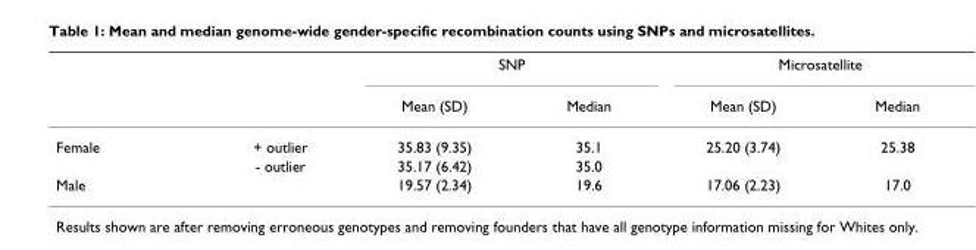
<table><thead><tr><td rowspan="2"></td><td rowspan="2"></td><td colspan="2">SNP</td><td colspan="2">Microsatellite</td></tr><tr><td>Mean (SD)</td><td>Median</td><td>Mean (SD)</td><td>Median</td></tr></thead><tbody><tr><td rowspan="2">Female</td><td>+ outlier</td><td>35.83 (9.35)</td><td>35.1</td><td>25.20 (3.74)</td><td>25.38</td></tr><tr><td>- outlier</td><td>35.17 (6.42)</td><td>35.0</td><td></td><td></td></tr><tr><td>Male</td><td></td><td>19.57 (2.34)</td><td>19.6</td><td>17.06 (2.23)</td><td>17.0</td></tr></tbody></table>